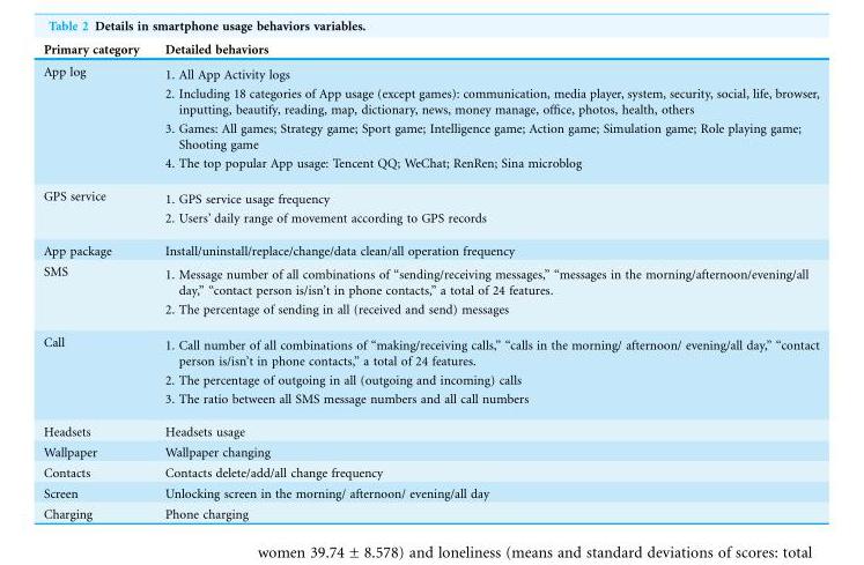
<table><thead><tr><td>Primary category</td><td>Detailed behaviors</td></tr></thead><tbody><tr><td>App log</td><td>1. All App Activity logs 2. Including 18 categories of App usage (except games): communication, media player, system, security, social, life, browser, inputting, beautify, reading, map, dictionary, news, money manage, office, photos, health, others 3. Games: All games; Strategy game; Sport game; Intelligence game; Action game; Simulation game; Role playing game; Shooting game 4. The top popular App usage: Tencent QQ; WeChat; RenRen; Sina microblog</td></tr><tr><td>GPS service</td><td>1. GPS service usage frequency 2. Users’ daily range of movement according to GPS records</td></tr><tr><td>App package</td><td>Install/uninstall/replace/change/data clean/all operation frequency</td></tr><tr><td>SMS</td><td>1. Message number of all combinations of “sending/receiving messages,” “messages in the morning/afternoon/evening/all day,” “contact person is/isn’t in phone contacts,” a total of 24 features. 2. The percentage of sending in all (received and send) messages</td></tr><tr><td>Call</td><td>1. Call number of all combinations of “making/receiving calls,” “calls in the morning/ afternoon/ evening/all day,” “contact person is/isn’t in phone contacts,” a total of 24 features. 2. The percentage of outgoing in all (outgoing and incoming) calls 3. The ratio between all SMS message numbers and all call numbers</td></tr><tr><td>Headsets</td><td>Headsets usage</td></tr><tr><td>Wallpaper</td><td>Wallpaper changing</td></tr><tr><td>Contacts</td><td>Contacts delete/add/all change frequency</td></tr><tr><td>Screen</td><td>Unlocking screen in the morning/ afternoon/ evening/all day</td></tr><tr><td>Charging</td><td>Phone charging</td></tr></tbody></table>